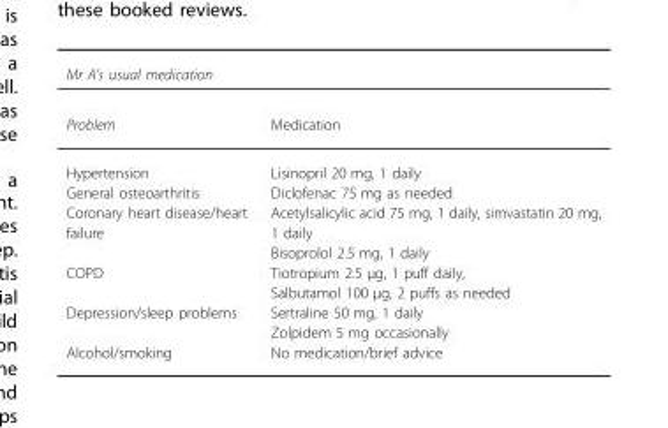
<table><thead><tr><td rowspan="2">Mr A’s usual medication Problem</td><td rowspan="2">Medication</td></tr><tr></tr></thead><tbody><tr><td>Hypertension</td><td>Lisinopril 20 mg, 1 daily</td></tr><tr><td>General osteoarthritis</td><td>Diclofenac 75 mg as needed</td></tr><tr><td rowspan="2">Coronary heart disease/heart failure</td><td>Acetylsalicylic acid 75 mg, 1 daily, simvastatin 20 mg, 1 daily</td></tr><tr><td>Bisoprolol 2.5 mg, 1 daily</td></tr><tr><td rowspan="2">COPD</td><td>Tiotropium 2.5 μg, 1 puff daily,</td></tr><tr><td>Salbutamol 100 μg, 2 puffs as needed</td></tr><tr><td rowspan="2">Depression/sleep problems</td><td>Sertraline 50 mg, 1 daily</td></tr><tr><td>Zolpidem 5 mg occasionally</td></tr><tr><td>Alcohol/smoking</td><td>No medication/brief advice</td></tr></tbody></table>